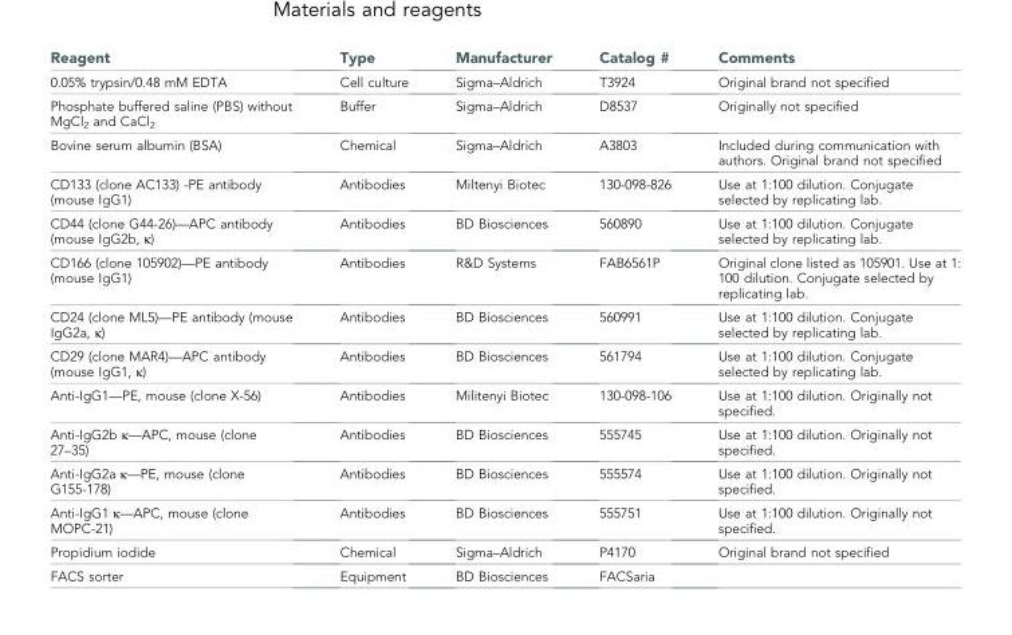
<table><thead><tr><td>Reagent</td><td>Type</td><td>Manufacturer</td><td>Catalog #</td><td>Comments</td></tr></thead><tbody><tr><td>0.05% trypsin/0.48 mM EDTA</td><td>Cell culture</td><td>Sigma–Aldrich</td><td>T3924</td><td>Original brand not specified</td></tr><tr><td>Phosphate buffered saline (PBS) without MgCl<sub>2</sub> and CaCl<sub>2</sub></td><td>Buffer</td><td>Sigma–Aldrich</td><td>D8537</td><td>Originally not specified</td></tr><tr><td>Bovine serum albumin (BSA)</td><td>Chemical</td><td>Sigma–Aldrich</td><td>A3803</td><td>Included during communication with authors. Original brand not specified</td></tr><tr><td>CD133 (clone AC133) -PE antibody (mouse IgG1)</td><td>Antibodies</td><td>Miltenyi Biotec</td><td>130-098-826</td><td>Use at 1:100 dilution. Conjugate selected by replicating lab.</td></tr><tr><td>CD44 (clone G44-26)—APC antibody (mouse IgG2b, κ)</td><td>Antibodies</td><td>BD Biosciences</td><td>560890</td><td>Use at 1:100 dilution. Conjugate selected by replicating lab.</td></tr><tr><td>CD166 (clone 105902)—PE antibody (mouse IgG1)</td><td>Antibodies</td><td>R&amp;D Systems</td><td>FAB6561P</td><td>Original clone listed as 105901. Use at 1: 100 dilution. Conjugate selected by replicating lab.</td></tr><tr><td>CD24 (clone ML5)—PE antibody (mouse IgG2a, κ)</td><td>Antibodies</td><td>BD Biosciences</td><td>560991</td><td>Use at 1:100 dilution. Conjugate selected by replicating lab.</td></tr><tr><td>CD29 (clone MAR4)—APC antibody (mouse IgG1, κ)</td><td>Antibodies</td><td>BD Biosciences</td><td>561794</td><td>Use at 1:100 dilution. Conjugate selected by replicating lab.</td></tr><tr><td>Anti-IgG1—PE, mouse (clone X-56)</td><td>Antibodies</td><td>Militenyi Biotec</td><td>130-098-106</td><td>Use at 1:100 dilution. Originally not specified.</td></tr><tr><td>Anti-IgG2b κ—APC, mouse (clone 27–35)</td><td>Antibodies</td><td>BD Biosciences</td><td>555745</td><td>Use at 1:100 dilution. Originally not specified.</td></tr><tr><td>Anti-IgG2a κ—PE, mouse (clone G155-178)</td><td>Antibodies</td><td>BD Biosciences</td><td>555574</td><td>Use at 1:100 dilution. Originally not specified.</td></tr><tr><td>Anti-IgG1 κ—APC, mouse (clone MOPC-21)</td><td>Antibodies</td><td>BD Biosciences</td><td>555751</td><td>Use at 1:100 dilution. Originally not specified.</td></tr><tr><td>Propidium iodide</td><td>Chemical</td><td>Sigma–Aldrich</td><td>P4170</td><td>Original brand not specified</td></tr><tr><td>FACS sorter</td><td>Equipment</td><td>BD Biosciences</td><td>FACSaria</td><td></td></tr></tbody></table>